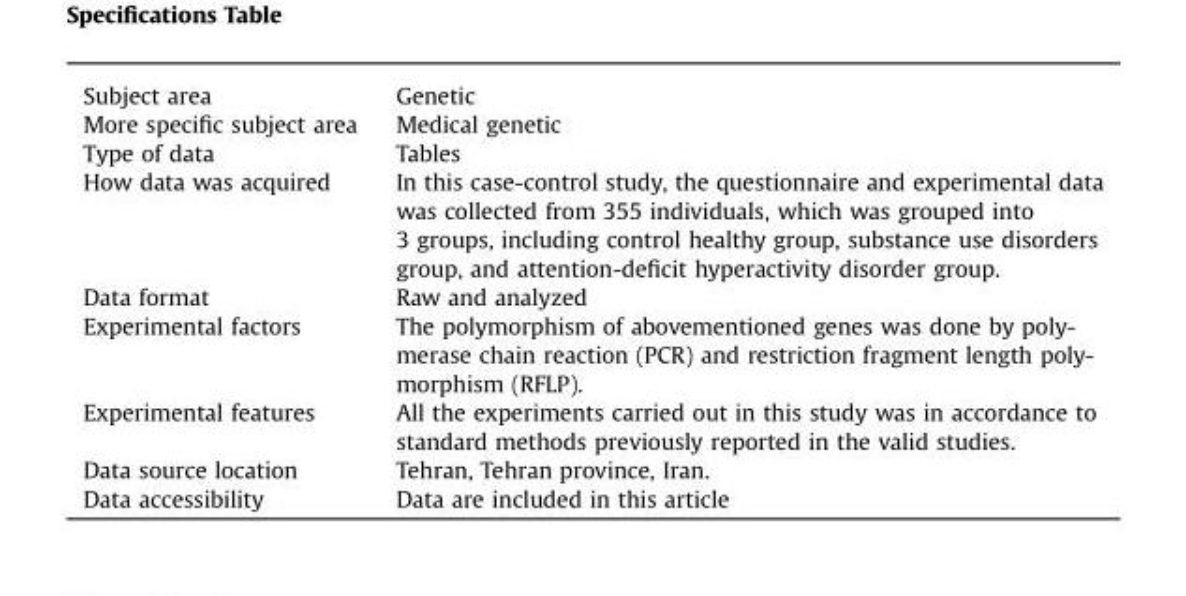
<table><tbody><tr><td>Subject area</td><td>Genetic</td></tr><tr><td>More specific subject area</td><td>Medical genetic</td></tr><tr><td>Type of data</td><td>Tables</td></tr><tr><td>How data was acquired</td><td>In this case-control study, the questionnaire and experimental data was collected from 355 individuals, which was grouped into 3 groups, including control healthy group, substance use disorders group, and attention-deficit hyperactivity disorder group.</td></tr><tr><td>Data format</td><td>Raw and analyzed</td></tr><tr><td>Experimental factors</td><td>The polymorphism of abovementioned genes was done by poly- merase chain reaction (PCR) and restriction fragment length poly- morphism (RFLP).</td></tr><tr><td>Experimental features</td><td>All the experiments carried out in this study was in accordance to standard methods previously reported in the valid studies.</td></tr><tr><td>Data source location</td><td>Tehran, Tehran province, Iran.</td></tr><tr><td>Data accessibility</td><td>Data are included in this article</td></tr></tbody></table>